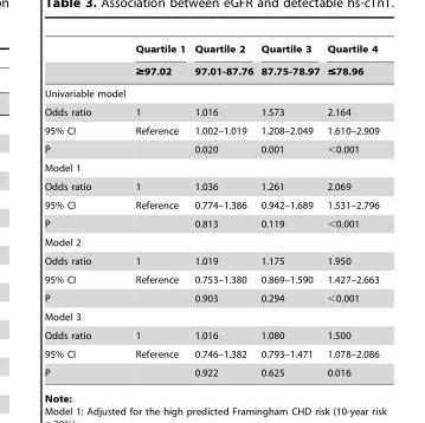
<table><thead><tr><td rowspan="2"></td><td rowspan="2">Quartile 1 ≥97.02</td><td rowspan="2">Quartile 2 97.01-87.76</td><td rowspan="2">Quartile 3 87.75-78.97</td><td rowspan="2">Quartile 4 ≤78.96</td></tr><tr></tr></thead><tbody><tr><td colspan="5">Univariable model</td></tr><tr><td>Odds ratio</td><td>1</td><td>1.016</td><td>1.573</td><td>2.164</td></tr><tr><td>95% CI</td><td>Reference</td><td>1.002–1.019</td><td>1.208–2.049</td><td>1.610–2.909</td></tr><tr><td>P</td><td></td><td>0.020</td><td>0.001</td><td>&lt;0.001</td></tr><tr><td colspan="5">Model 1</td></tr><tr><td>Odds ratio</td><td>1</td><td>1.036</td><td>1.261</td><td>2.069</td></tr><tr><td>95% CI</td><td>Reference</td><td>0.774–1.386</td><td>0.942–1.689</td><td>1.531–2.796</td></tr><tr><td>P</td><td></td><td>0.813</td><td>0.119</td><td>&lt;0.001</td></tr><tr><td colspan="5">Model 2</td></tr><tr><td>Odds ratio</td><td>1</td><td>1.019</td><td>1.175</td><td>1.950</td></tr><tr><td>95% CI</td><td>Reference</td><td>0.753–1.380</td><td>0.869–1.590</td><td>1.427–2.663</td></tr><tr><td>P</td><td></td><td>0.903</td><td>0.294</td><td>&lt;0.001</td></tr><tr><td colspan="5">Model 3</td></tr><tr><td>Odds ratio</td><td>1</td><td>1.016</td><td>1.080</td><td>1.500</td></tr><tr><td>95% CI</td><td>Reference</td><td>0.746–1.382</td><td>0.793–1.471</td><td>1.078–2.086</td></tr><tr><td>P</td><td></td><td>0.922</td><td>0.625</td><td>0.016</td></tr></tbody></table>